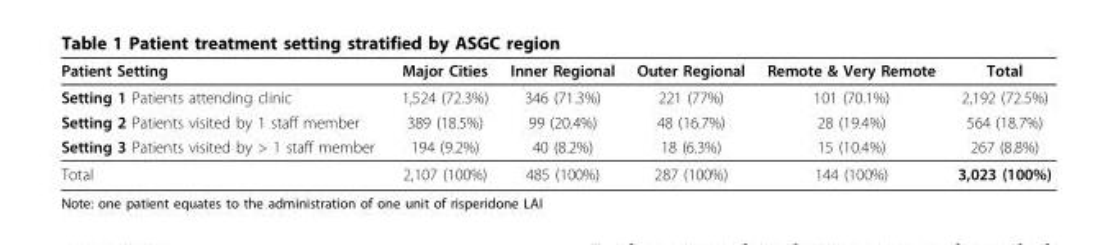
<table><thead><tr><td>Patient Setting</td><td>Major Cities</td><td>Inner Regional</td><td>Outer Regional</td><td>Remote &amp; Very Remote</td><td>Total</td></tr></thead><tbody><tr><td>Setting 1 Patients attending clinic</td><td>1,524 (72.3%)</td><td>346 (71.3%)</td><td>221 (77%)</td><td>101 (70.1%)</td><td>2,192 (72.5%)</td></tr><tr><td>Setting 2 Patients visited by 1 staff member</td><td>389 (18.5%)</td><td>99 (20.4%)</td><td>48 (16.7%)</td><td>28 (19.4%)</td><td>564 (18.7%)</td></tr><tr><td>Setting 3 Patients visited by &gt; 1 staff member</td><td>194 (9.2%)</td><td>40 (8.2%)</td><td>18 (6.3%)</td><td>15 (10.4%)</td><td>267 (8.8%)</td></tr><tr><td>Total</td><td>2,107 (100%)</td><td>485 (100%)</td><td>287 (100%)</td><td>144 (100%)</td><td>3,023 (100%)</td></tr></tbody></table>